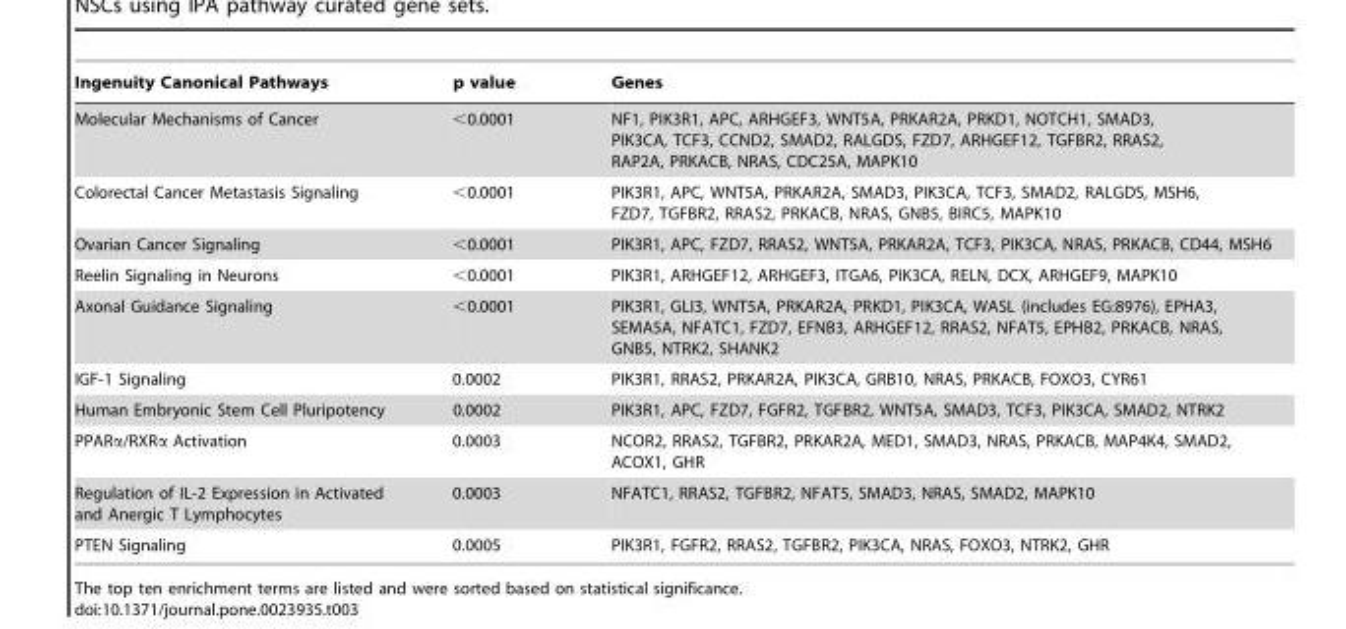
<table><thead><tr><td>Ingenuity Canonical Pathways</td><td>p value</td><td>Genes</td></tr></thead><tbody><tr><td>Molecular Mechanisms of Cancer</td><td>&lt;0.0001</td><td>NF1, PIK3R1, APC, ARHGEF3, WNT5A, PRKAR2A, PRKD1, NOTCH1, SMAD3, PIK3CA, TCF3, CCND2, SMAD2, RALGDS, FZD7, ARHGEF12, TGFBR2, RRAS2, RAP2A, PRKACB, NRAS, CDC25A, MAPK10</td></tr><tr><td>Colorectal Cancer Metastasis Signaling</td><td>&lt;0.0001</td><td>PIK3R1, APC, WNT5A, PRKAR2A, SMAD3, PIK3CA, TCF3, SMAD2, RALGDS, MSH6, FZD7, TGFBR2, RRAS2, PRKACB, NRAS, GNB5, BIRC5, MAPK10</td></tr><tr><td>Ovarian Cancer Signaling</td><td>&lt;0.0001</td><td>PIK3R1, APC, FZD7, RRAS2, WNT5A, PRKAR2A, TCF3, PIK3CA, NRAS, PRKACB, CD44, MSH6</td></tr><tr><td>Reelin Signaling in Neurons</td><td>&lt;0.0001</td><td>PIK3R1, ARHGEF12, ARHGEF3, ITGA6, PIK3CA, RELN, DCX, ARHGEF9, MAPK10</td></tr><tr><td>Axonal Guidance Signaling</td><td>&lt;0.0001</td><td>PIK3R1, GLI3, WNT5A, PRKAR2A, PRKD1, PIK3CA, WASL (includes EG:8976), EPHA3, SEMA5A, NFATC1, FZD7, EFNB3, ARHGEF12, RRAS2, NFAT5, EPHB2, PRKACB, NRAS, GNB5, NTRK2, SHANK2</td></tr><tr><td>IGF-1 Signaling</td><td>0.0002</td><td>PIK3R1, RRAS2, PRKAR2A, PIK3CA, GRB10, NRAS, PRKACB, FOXO3, CYR61</td></tr><tr><td>Human Embryonic Stem Cell Pluripotency</td><td>0.0002</td><td>PIK3R1, APC, FZD7, FGFR2, TGFBR2, WNT5A, SMAD3, TCF3, PIK3CA, SMAD2, NTRK2</td></tr><tr><td>PPARα/RXRα Activation</td><td>0.0003</td><td>NCOR2, RRAS2, TGFBR2, PRKAR2A, MED1, SMAD3, NRAS, PRKACB, MAP4K4, SMAD2, ACOX1, GHR</td></tr><tr><td>Regulation of IL-2 Expression in Activated and Anergic T Lymphocytes</td><td>0.0003</td><td>NFATC1, RRAS2, TGFBR2, NFAT5, SMAD3, NRAS, SMAD2, MAPK10</td></tr><tr><td>PTEN Signaling</td><td>0.0005</td><td>PIK3R1, FGFR2, RRAS2, TGFBR2, PIK3CA, NRAS, FOXO3, NTRK2, GHR</td></tr></tbody></table>